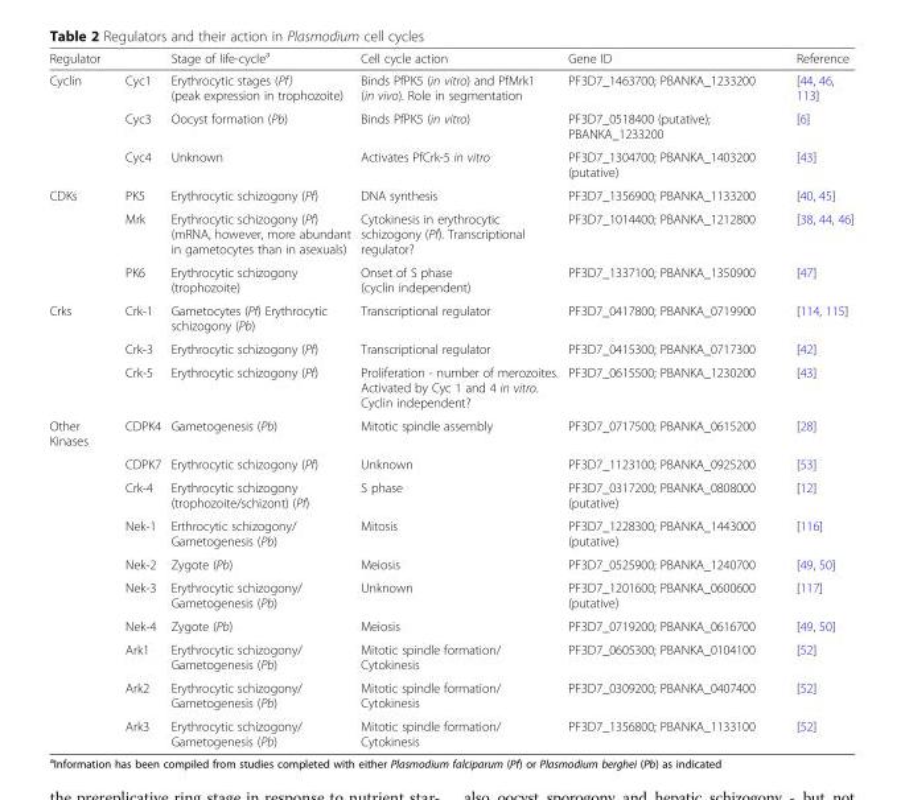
<table><thead><tr><td colspan="2">Regulator</td><td rowspan="2">Stage of life-cycle<sup>a</sup> Erythrocytic stages (Pf) (peak expression in trophozoite)</td><td rowspan="2">Cell cycle action Binds PfPK5 (in vitro) and PfMrk1 (in vivo). Role in segmentation</td><td rowspan="2">Gene ID PF3D7_1463700; PBANKA_1233200</td><td rowspan="2">Reference [44, 46, 113]</td></tr><tr><td>Cyclin</td><td>Cyc1</td></tr></thead><tbody><tr><td></td><td>Cyc3</td><td>Oocyst formation (Pb)</td><td>Binds PfPK5 (in vitro)</td><td>PF3D7_0518400 (putative); PBANKA_1233200</td><td>[6]</td></tr><tr><td></td><td>Cyc4</td><td>Unknown</td><td>Activates PfCrk-5 in vitro</td><td>PF3D7_1304700; PBANKA_1403200 (putative)</td><td>[43]</td></tr><tr><td rowspan="3">CDKs</td><td>PK5</td><td>Erythrocytic schizogony (Pf)</td><td>DNA synthesis</td><td>PF3D7_1356900; PBANKA_1133200</td><td>[40, 45]</td></tr><tr><td>Mrk</td><td>Erythrocytic schizogony (Pf) (mRNA, however, more abundant in gametocytes than in asexuals)</td><td>Cytokinesis in erythrocytic schizogony (Pf). Transcriptional regulator?</td><td>PF3D7_1014400; PBANKA_1212800</td><td>[38, 44, 46]</td></tr><tr><td>PK6</td><td>Erythrocytic schizogony (trophozoite)</td><td>Onset of S phase (cyclin independent)</td><td>PF3D7_1337100; PBANKA_1350900</td><td>[47]</td></tr><tr><td rowspan="3">Crks</td><td>Crk-1</td><td>Gametocytes (Pf) Erythrocytic schizogony (Pb)</td><td>Transcriptional regulator</td><td>PF3D7_0417800; PBANKA_0719900</td><td>[114, 115]</td></tr><tr><td>Crk-3</td><td>Erythrocytic schizogony (Pf)</td><td>Transcriptional regulator</td><td>PF3D7_0415300; PBANKA_0717300</td><td>[42]</td></tr><tr><td>Crk-5</td><td>Erythrocytic schizogony (Pf)</td><td>Proliferation - number of merozoites. Activated by Cyc 1 and 4 in vitro. Cyclin independent?</td><td>PF3D7_0615500; PBANKA_1230200</td><td>[43]</td></tr><tr><td rowspan="10">Other Kinases</td><td>CDPK4</td><td>Gametogenesis (Pb)</td><td>Mitotic spindle assembly</td><td>PF3D7_0717500; PBANKA_0615200</td><td>[28]</td></tr><tr><td>CDPK7</td><td>Erythrocytic schizogony (Pf)</td><td>Unknown</td><td>PF3D7_1123100; PBANKA_0925200</td><td>[53]</td></tr><tr><td>Crk-4</td><td>Erythrocytic schizogony (trophozoite/schizont) (Pf)</td><td>S phase</td><td>PF3D7_0317200; PBANKA_0808000 (putative)</td><td>[12]</td></tr><tr><td>Nek-1</td><td>Erthrocytic schizogony/ Gametogenesis (Pb)</td><td>Mitosis</td><td>PF3D7_1228300; PBANKA_1443000 (putative)</td><td>[116]</td></tr><tr><td>Nek-2</td><td>Zygote (Pb)</td><td>Meiosis</td><td>PF3D7_0525900; PBANKA_1240700</td><td>[49, 50]</td></tr><tr><td>Nek-3</td><td>Erythrocytic schizogony/ Gametogenesis (Pb)</td><td>Unknown</td><td>PF3D7_1201600; PBANKA_0600600 (putative)</td><td>[117]</td></tr><tr><td>Nek-4</td><td>Zygote (Pb)</td><td>Meiosis</td><td>PF3D7_0719200; PBANKA_0616700</td><td>[49, 50]</td></tr><tr><td>Ark1</td><td>Erythrocytic schizogony/ Gametogenesis (Pb)</td><td>Mitotic spindle formation/ Cytokinesis</td><td>PF3D7_0605300; PBANKA_0104100</td><td>[52]</td></tr><tr><td>Ark2</td><td>Erythrocytic schizogony/ Gametogenesis (Pb)</td><td>Mitotic spindle formation/ Cytokinesis</td><td>PF3D7_0309200; PBANKA_0407400</td><td>[52]</td></tr><tr><td>Ark3</td><td>Erythrocytic schizogony/ Gametogenesis (Pb)</td><td>Mitotic spindle formation/ Cytokinesis</td><td>PF3D7_1356800; PBANKA_1133100</td><td>[52]</td></tr></tbody></table>